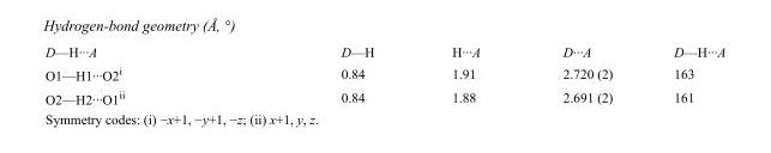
<table><tbody><tr><td>D—H···A</td><td>D—H</td><td>H···A</td><td>D···A</td><td>D—H···A</td></tr><tr><td>O1—H1···O2<sup>i</sup></td><td>0.84</td><td>1.91</td><td>2.720 (2)</td><td>163</td></tr><tr><td>O2—H2···O1<sup>ii</sup></td><td>0.84</td><td>1.88</td><td>2.691 (2)</td><td>161</td></tr></tbody></table>